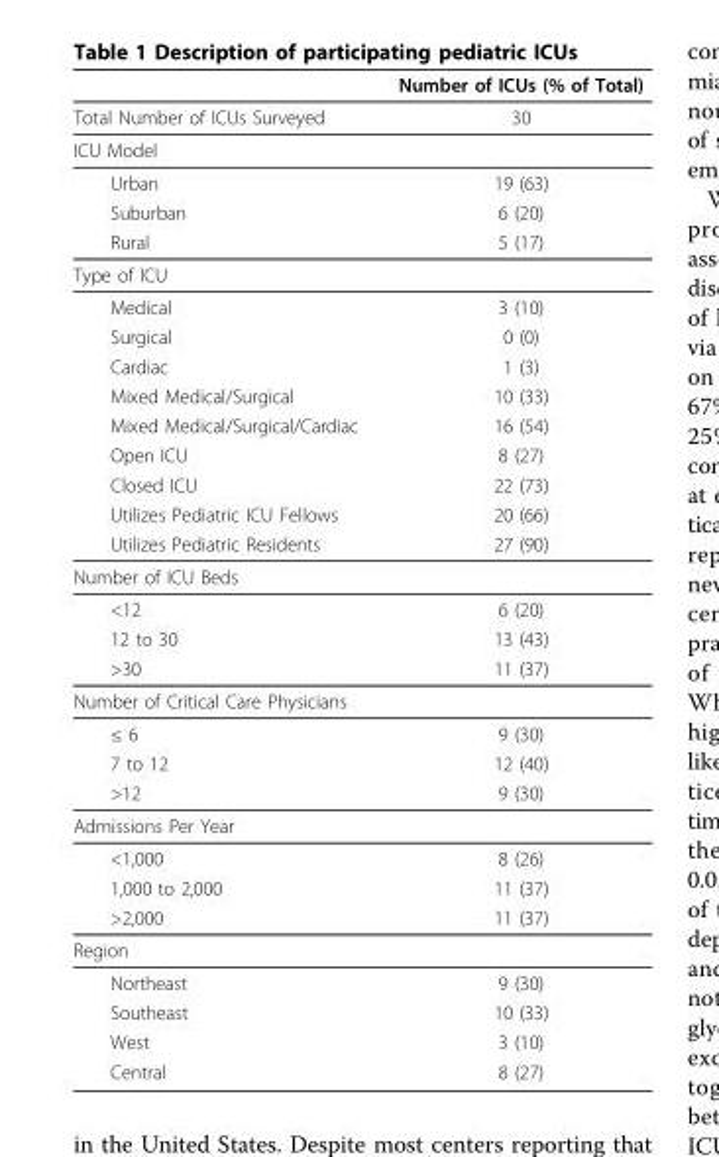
<table><thead><tr><td></td><td>Number of ICUs (% of Total)</td></tr></thead><tbody><tr><td>Total Number of ICUs Surveyed</td><td>30</td></tr><tr><td colspan="2">ICU Model</td></tr><tr><td>Urban</td><td>19 (63)</td></tr><tr><td>Suburban</td><td>6 (20)</td></tr><tr><td>Rural</td><td>5 (17)</td></tr><tr><td colspan="2">Type of ICU</td></tr><tr><td>Medical</td><td>3 (10)</td></tr><tr><td>Surgical</td><td>0 (0)</td></tr><tr><td>Cardiac</td><td>1 (3)</td></tr><tr><td>Mixed Medical/Surgical</td><td>10 (33)</td></tr><tr><td>Mixed Medical/Surgical/Cardiac</td><td>16 (54)</td></tr><tr><td>Open ICU</td><td>8 (27)</td></tr><tr><td>Closed ICU</td><td>22 (73)</td></tr><tr><td>Utilizes Pediatric ICU Fellows</td><td>20 (66)</td></tr><tr><td>Utilizes Pediatric Residents</td><td>27 (90)</td></tr><tr><td colspan="2">Number of ICU Beds</td></tr><tr><td>&lt;12</td><td>6 (20)</td></tr><tr><td>12 to 30</td><td>13 (43)</td></tr><tr><td>&gt;30</td><td>11 (37)</td></tr><tr><td colspan="2">Number of Critical Care Physicians</td></tr><tr><td>≤ 6</td><td>9 (30)</td></tr><tr><td>7 to 12</td><td>12 (40)</td></tr><tr><td>&gt;12</td><td>9 (30)</td></tr><tr><td colspan="2">Admissions Per Year</td></tr><tr><td>&lt;1,000</td><td>8 (26)</td></tr><tr><td>1,000 to 2,000</td><td>11 (37)</td></tr><tr><td>&gt;2,000</td><td>11 (37)</td></tr><tr><td colspan="2">Region</td></tr><tr><td>Northeast</td><td>9 (30)</td></tr><tr><td>Southeast</td><td>10 (33)</td></tr><tr><td>West</td><td>3 (10)</td></tr><tr><td>Central</td><td>8 (27)</td></tr></tbody></table>